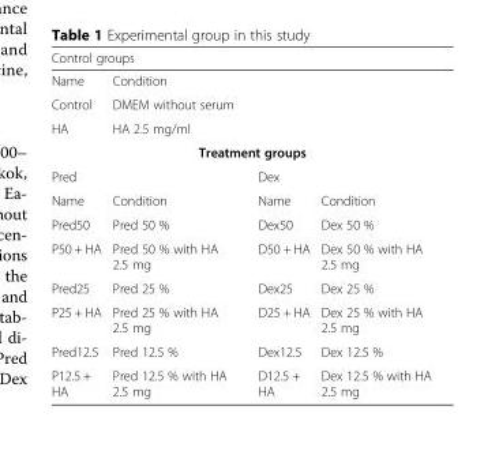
<table><thead><tr><td colspan="4">Control groups</td></tr></thead><tbody><tr><td>Name</td><td colspan="3">Condition</td></tr><tr><td>Control</td><td colspan="2">DMEM without serum</td><td></td></tr><tr><td>HA</td><td colspan="2">HA 2.5 mg/ml</td><td></td></tr><tr><td colspan="4">Treatment groups</td></tr><tr><td colspan="2">Pred</td><td colspan="2">Dex</td></tr><tr><td>Name</td><td>Condition</td><td>Name</td><td>Condition</td></tr><tr><td>Pred50</td><td>Pred 50 %</td><td>Dex50</td><td>Dex 50 %</td></tr><tr><td>P50 + HA</td><td>Pred 50 % with HA 2.5 mg</td><td>D50 + HA</td><td>Dex 50 % with HA 2.5 mg</td></tr><tr><td>Pred25</td><td>Pred 25 %</td><td>Dex25</td><td>Dex 25 %</td></tr><tr><td>P25 + HA</td><td>Pred 25 % with HA 2.5 mg</td><td>D25 + HA</td><td>Dex 25 % with HA 2.5 mg</td></tr><tr><td>Pred12.5</td><td>Pred 12.5 %</td><td>Dex12.5</td><td>Dex 12.5 %</td></tr><tr><td>P12.5 + HA</td><td>Pred 12.5 % with HA 2.5 mg</td><td>D12.5 + HA</td><td>Dex 12.5 % with HA 2.5 mg</td></tr></tbody></table>